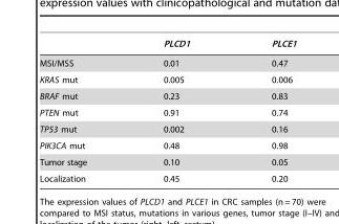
<table><thead><tr><td></td><td>PLCD1</td><td>PLCE1</td></tr></thead><tbody><tr><td>MSI/MSS</td><td>0.01</td><td>0.47</td></tr><tr><td>KRAS mut</td><td>0.005</td><td>0.006</td></tr><tr><td>BRAF mut</td><td>0.23</td><td>0.83</td></tr><tr><td>PTEN mut</td><td>0.91</td><td>0.74</td></tr><tr><td>TP53 mut</td><td>0.002</td><td>0.16</td></tr><tr><td>PIK3CA mut</td><td>0.48</td><td>0.98</td></tr><tr><td>Tumor stage</td><td>0.10</td><td>0.05</td></tr><tr><td>Localization</td><td>0.45</td><td>0.20</td></tr></tbody></table>